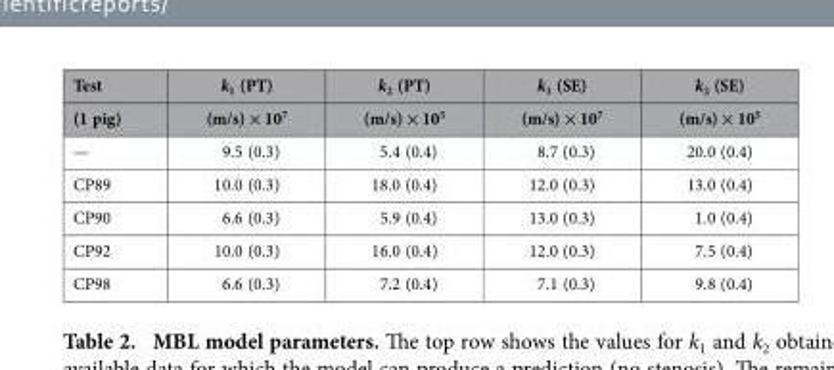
<table><thead><tr><td rowspan="2">Test (1 pig)</td><td rowspan="2">k<sub>1</sub> (PT) (m/s) × 10<sup>7</sup></td><td rowspan="2">k<sub>2</sub> (PT) (m/s) × 10<sup>5</sup></td><td rowspan="2">k<sub>1</sub> (SE) (m/s) × 10<sup>7</sup></td><td rowspan="2">k<sub>2</sub> (SE) (m/s) × 10<sup>5</sup></td></tr><tr></tr></thead><tbody><tr><td>—</td><td>9.5 (0.3)</td><td>5.4 (0.4)</td><td>8.7 (0.3)</td><td>20.0 (0.4)</td></tr><tr><td>CP89</td><td>10.0 (0.3)</td><td>18.0 (0.4)</td><td>12.0 (0.3)</td><td>13.0 (0.4)</td></tr><tr><td>CP90</td><td>6.6 (0.3)</td><td>5.9 (0.4)</td><td>13.0 (0.3)</td><td>1.0 (0.4)</td></tr><tr><td>CP92</td><td>10.0 (0.3)</td><td>16.0 (0.4)</td><td>12.0 (0.3)</td><td>7.5 (0.4)</td></tr><tr><td>CP98</td><td>6.6 (0.3)</td><td>7.2 (0.4)</td><td>7.1 (0.3)</td><td>9.8 (0.4)</td></tr></tbody></table>